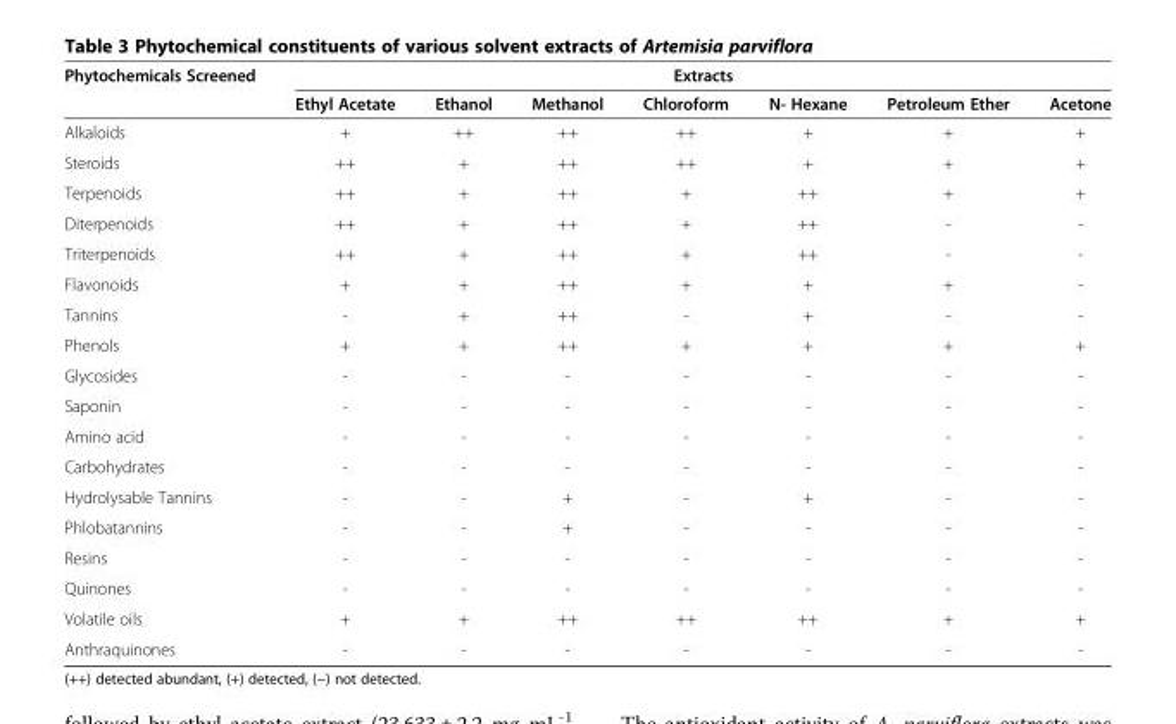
<table><thead><tr><td rowspan="2">Phytochemicals Screened</td><td colspan="7">Extracts</td></tr><tr><td>Ethyl Acetate</td><td>Ethanol</td><td>Methanol</td><td>Chloroform</td><td>N- Hexane</td><td>Petroleum Ether</td><td>Acetone</td></tr></thead><tbody><tr><td>Alkaloids</td><td>+</td><td>++</td><td>++</td><td>++</td><td>+</td><td>+</td><td>+</td></tr><tr><td>Steroids</td><td>++</td><td>+</td><td>++</td><td>++</td><td>+</td><td>+</td><td>+</td></tr><tr><td>Terpenoids</td><td>++</td><td>+</td><td>++</td><td>+</td><td>++</td><td>+</td><td>+</td></tr><tr><td>Diterpenoids</td><td>++</td><td>+</td><td>++</td><td>+</td><td>++</td><td>-</td><td>-</td></tr><tr><td>Triterpenoids</td><td>++</td><td>+</td><td>++</td><td>+</td><td>++</td><td>-</td><td>-</td></tr><tr><td>Flavonoids</td><td>+</td><td>+</td><td>++</td><td>+</td><td>+</td><td>+</td><td>-</td></tr><tr><td>Tannins</td><td>-</td><td>+</td><td>++</td><td>-</td><td>+</td><td>-</td><td>-</td></tr><tr><td>Phenols</td><td>+</td><td>+</td><td>++</td><td>+</td><td>+</td><td>+</td><td>+</td></tr><tr><td>Glycosides</td><td>-</td><td>-</td><td>-</td><td>-</td><td>-</td><td>-</td><td>-</td></tr><tr><td>Saponin</td><td>-</td><td>-</td><td>-</td><td>-</td><td>-</td><td>-</td><td>-</td></tr><tr><td>Amino acid</td><td>-</td><td>-</td><td>-</td><td>-</td><td>-</td><td>-</td><td>-</td></tr><tr><td>Carbohydrates</td><td>-</td><td>-</td><td>-</td><td>-</td><td>-</td><td>-</td><td>-</td></tr><tr><td>Hydrolysable Tannins</td><td>-</td><td>-</td><td>+</td><td>-</td><td>+</td><td>-</td><td>-</td></tr><tr><td>Phlobatannins</td><td>-</td><td>-</td><td>+</td><td>-</td><td>-</td><td>-</td><td>-</td></tr><tr><td>Resins</td><td>-</td><td>-</td><td>-</td><td>-</td><td>-</td><td>-</td><td>-</td></tr><tr><td>Quinones</td><td>-</td><td>-</td><td>-</td><td>-</td><td>-</td><td>-</td><td>-</td></tr><tr><td>Volatile oils</td><td>+</td><td>+</td><td>++</td><td>++</td><td>++</td><td>+</td><td>+</td></tr><tr><td>Anthraquinones</td><td>-</td><td>-</td><td>-</td><td>-</td><td>-</td><td>-</td><td>-</td></tr></tbody></table>